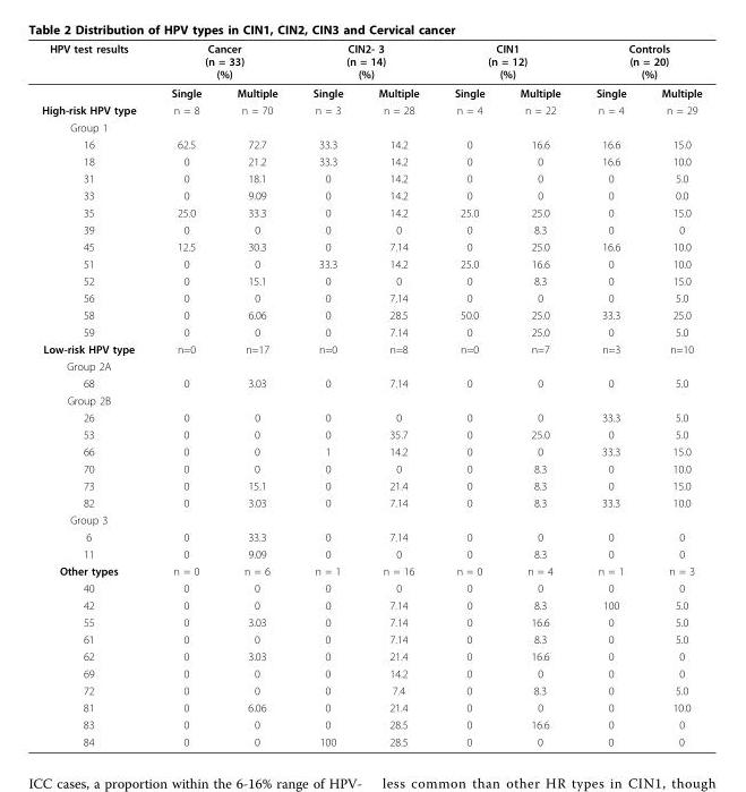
<table><thead><tr><td rowspan="2">HPV test results</td><td colspan="2">Cancer (n = 33) (%)</td><td colspan="2">CIN2- 3 (n = 14) (%)</td><td colspan="2">CIN1 (n = 12) (%)</td><td colspan="2">Controls (n = 20) (%)</td></tr><tr><td>Single</td><td>Multiple</td><td>Single</td><td>Multiple</td><td>Single</td><td>Multiple</td><td>Single</td><td>Multiple</td></tr></thead><tbody><tr><td>High-risk HPV type</td><td>n = 8</td><td>n = 70</td><td>n = 3</td><td>n = 28</td><td>n = 4</td><td>n = 22</td><td>n = 4</td><td>n = 29</td></tr><tr><td colspan="9">Group 1</td></tr><tr><td>16</td><td>62.5</td><td>72.7</td><td>33.3</td><td>14.2</td><td>0</td><td>16.6</td><td>16.6</td><td>15.0</td></tr><tr><td>18</td><td>0</td><td>21.2</td><td>33.3</td><td>14.2</td><td>0</td><td>0</td><td>16.6</td><td>10.0</td></tr><tr><td>31</td><td>0</td><td>18.1</td><td>0</td><td>14.2</td><td>0</td><td>0</td><td>0</td><td>5.0</td></tr><tr><td>33</td><td>0</td><td>9.09</td><td>0</td><td>14.2</td><td>0</td><td>0</td><td>0</td><td>0.0</td></tr><tr><td>35</td><td>25.0</td><td>33.3</td><td>0</td><td>14.2</td><td>25.0</td><td>25.0</td><td>0</td><td>15.0</td></tr><tr><td>39</td><td>0</td><td>0</td><td>0</td><td>0</td><td>0</td><td>8.3</td><td>0</td><td>0</td></tr><tr><td>45</td><td>12.5</td><td>30.3</td><td>0</td><td>7.14</td><td>0</td><td>25.0</td><td>16.6</td><td>10.0</td></tr><tr><td>51</td><td>0</td><td>0</td><td>33.3</td><td>14.2</td><td>25.0</td><td>16.6</td><td>0</td><td>10.0</td></tr><tr><td>52</td><td>0</td><td>15.1</td><td>0</td><td>0</td><td>0</td><td>8.3</td><td>0</td><td>15.0</td></tr><tr><td>56</td><td>0</td><td>0</td><td>0</td><td>7.14</td><td>0</td><td>0</td><td>0</td><td>5.0</td></tr><tr><td>58</td><td>0</td><td>6.06</td><td>0</td><td>28.5</td><td>50.0</td><td>25.0</td><td>33.3</td><td>25.0</td></tr><tr><td>59</td><td>0</td><td>0</td><td>0</td><td>7.14</td><td>0</td><td>25.0</td><td>0</td><td>5.0</td></tr><tr><td>Low-risk HPV type</td><td>n=0</td><td>n=17</td><td>n=0</td><td>n=8</td><td>n=0</td><td>n=7</td><td>n=3</td><td>n=10</td></tr><tr><td colspan="9">Group 2A</td></tr><tr><td>68</td><td>0</td><td>3.03</td><td>0</td><td>7.14</td><td>0</td><td>0</td><td>0</td><td>5.0</td></tr><tr><td colspan="9">Group 2B</td></tr><tr><td>26</td><td>0</td><td>0</td><td>0</td><td>0</td><td>0</td><td>0</td><td>33.3</td><td>5.0</td></tr><tr><td>53</td><td>0</td><td>0</td><td>0</td><td>35.7</td><td>0</td><td>25.0</td><td>0</td><td>5.0</td></tr><tr><td>66</td><td>0</td><td>0</td><td>1</td><td>14.2</td><td>0</td><td>0</td><td>33.3</td><td>15.0</td></tr><tr><td>70</td><td>0</td><td>0</td><td>0</td><td>0</td><td>0</td><td>8.3</td><td>0</td><td>10.0</td></tr><tr><td>73</td><td>0</td><td>15.1</td><td>0</td><td>21.4</td><td>0</td><td>8.3</td><td>0</td><td>15.0</td></tr><tr><td>82</td><td>0</td><td>3.03</td><td>0</td><td>7.14</td><td>0</td><td>8.3</td><td>33.3</td><td>10.0</td></tr><tr><td colspan="9">Group 3</td></tr><tr><td>6</td><td>0</td><td>33.3</td><td>0</td><td>7.14</td><td>0</td><td>0</td><td>0</td><td>0</td></tr><tr><td>11</td><td>0</td><td>9.09</td><td>0</td><td>0</td><td>0</td><td>8.3</td><td>0</td><td>0</td></tr><tr><td>Other types</td><td>n = 0</td><td>n = 6</td><td>n = 1</td><td>n = 16</td><td>n = 0</td><td>n = 4</td><td>n = 1</td><td>n = 3</td></tr><tr><td>40</td><td>0</td><td>0</td><td>0</td><td>0</td><td>0</td><td>0</td><td>0</td><td>0</td></tr><tr><td>42</td><td>0</td><td>0</td><td>0</td><td>7.14</td><td>0</td><td>8.3</td><td>100</td><td>5.0</td></tr><tr><td>55</td><td>0</td><td>3.03</td><td>0</td><td>7.14</td><td>0</td><td>16.6</td><td>0</td><td>5.0</td></tr><tr><td>61</td><td>0</td><td>0</td><td>0</td><td>7.14</td><td>0</td><td>8.3</td><td>0</td><td>5.0</td></tr><tr><td>62</td><td>0</td><td>3.03</td><td>0</td><td>21.4</td><td>0</td><td>16.6</td><td>0</td><td>0</td></tr><tr><td>69</td><td>0</td><td>0</td><td>0</td><td>14.2</td><td>0</td><td>0</td><td>0</td><td>0</td></tr><tr><td>72</td><td>0</td><td>0</td><td>0</td><td>7.4</td><td>0</td><td>8.3</td><td>0</td><td>5.0</td></tr><tr><td>81</td><td>0</td><td>6.06</td><td>0</td><td>21.4</td><td>0</td><td>0</td><td>0</td><td>10.0</td></tr><tr><td>83</td><td>0</td><td>0</td><td>0</td><td>28.5</td><td>0</td><td>16.6</td><td>0</td><td>0</td></tr><tr><td>84</td><td>0</td><td>0</td><td>100</td><td>28.5</td><td>0</td><td>0</td><td>0</td><td>0</td></tr></tbody></table>